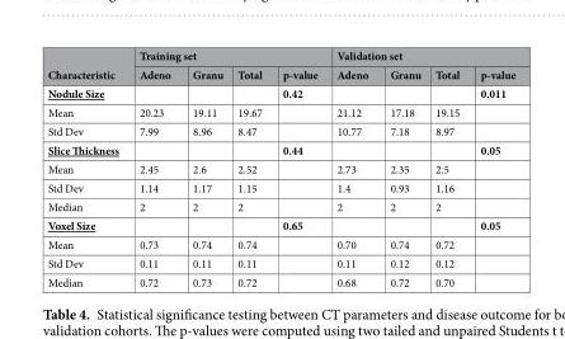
<table><thead><tr><td rowspan="2">Characteristic</td><td colspan="4">Training set</td><td colspan="4">Validation set</td></tr><tr><td>Adeno</td><td>Granu</td><td>Total</td><td>p-value</td><td>Adeno</td><td>Granu</td><td>Total</td><td>p-value</td></tr></thead><tbody><tr><td>Nodule Size</td><td></td><td></td><td></td><td>0.42</td><td></td><td></td><td></td><td>0.011</td></tr><tr><td>Mean</td><td>20.23</td><td>19.11</td><td>19.67</td><td></td><td>21.12</td><td>17.18</td><td>19.15</td><td></td></tr><tr><td>Std Dev</td><td>7.99</td><td>8.96</td><td>8.47</td><td></td><td>10.77</td><td>7.18</td><td>8.97</td><td></td></tr><tr><td>Slice Thickness</td><td></td><td></td><td></td><td>0.44</td><td></td><td></td><td></td><td>0.05</td></tr><tr><td>Mean</td><td>2.45</td><td>2.6</td><td>2.52</td><td></td><td>2.73</td><td>2.35</td><td>2.5</td><td></td></tr><tr><td>Std Dev</td><td>1.14</td><td>1.17</td><td>1.15</td><td></td><td>1.4</td><td>0.93</td><td>1.16</td><td></td></tr><tr><td>Median</td><td>2</td><td>2</td><td>2</td><td></td><td>2</td><td>2</td><td>2</td><td></td></tr><tr><td>Voxel Size</td><td></td><td></td><td></td><td>0.65</td><td></td><td></td><td></td><td>0.05</td></tr><tr><td>Mean</td><td>0.73</td><td>0.74</td><td>0.74</td><td></td><td>0.70</td><td>0.74</td><td>0.72</td><td></td></tr><tr><td>Std Dev</td><td>0.11</td><td>0.11</td><td>0.11</td><td></td><td>0.11</td><td>0.12</td><td>0.12</td><td></td></tr><tr><td>Median</td><td>0.72</td><td>0.73</td><td>0.72</td><td></td><td>0.68</td><td>0.72</td><td>0.70</td><td></td></tr></tbody></table>